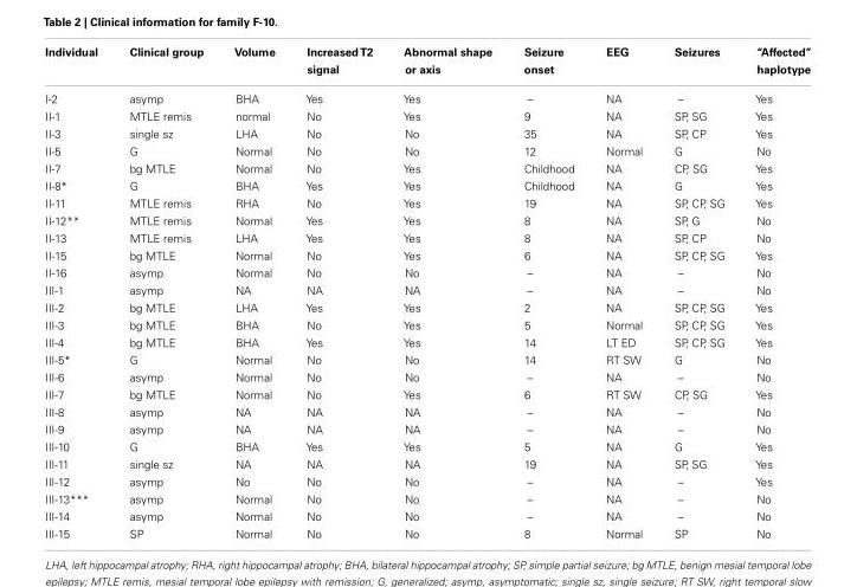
<table><thead><tr><td>Individual</td><td>Clinical group</td><td>Volume</td><td>IncreasedT2 signal</td><td>Abnormal shape or axis</td><td>Seizure onset</td><td>EEG</td><td>Seizures</td><td>“Affected” haplotype</td></tr></thead><tbody><tr><td>I-2</td><td>asymp</td><td>BHA</td><td>Yes</td><td>Yes</td><td>–</td><td>NA</td><td>–</td><td>Yes</td></tr><tr><td>II-1</td><td>MTLE remis</td><td>normal</td><td>No</td><td>Yes</td><td>9</td><td>NA</td><td>SP, SG</td><td>Yes</td></tr><tr><td>II-3</td><td>single sz</td><td>LHA</td><td>No</td><td>No</td><td>35</td><td>NA</td><td>SP, CP</td><td>Yes</td></tr><tr><td>II-5</td><td>G</td><td>Normal</td><td>No</td><td>No</td><td>12</td><td>Normal</td><td>G</td><td>No</td></tr><tr><td>II-7</td><td>bg MTLE</td><td>Normal</td><td>No</td><td>Yes</td><td>Childhood</td><td>NA</td><td>CP, SG</td><td>Yes</td></tr><tr><td>II-8*</td><td>G</td><td>BHA</td><td>Yes</td><td>Yes</td><td>Childhood</td><td>NA</td><td>G</td><td>Yes</td></tr><tr><td>II-11</td><td>MTLE remis</td><td>RHA</td><td>No</td><td>Yes</td><td>19</td><td>NA</td><td>SP, CP, SG</td><td>Yes</td></tr><tr><td>II-12**</td><td>MTLE remis</td><td>Normal</td><td>Yes</td><td>Yes</td><td>8</td><td>NA</td><td>SP, G</td><td>No</td></tr><tr><td>II-13</td><td>MTLE remis</td><td>LHA</td><td>Yes</td><td>Yes</td><td>8</td><td>NA</td><td>SP, CP</td><td>No</td></tr><tr><td>II-15</td><td>bg MTLE</td><td>Normal</td><td>No</td><td>Yes</td><td>6</td><td>NA</td><td>SP, CP, SG</td><td>Yes</td></tr><tr><td>II-16</td><td>asymp</td><td>Normal</td><td>No</td><td>No</td><td>–</td><td>NA</td><td>–</td><td>No</td></tr><tr><td>III-1</td><td>asymp</td><td>NA</td><td>NA</td><td>NA</td><td>–</td><td>NA</td><td>–</td><td>No</td></tr><tr><td>III-2</td><td>bg MTLE</td><td>LHA</td><td>Yes</td><td>Yes</td><td>2</td><td>NA</td><td>SP, CP, SG</td><td>Yes</td></tr><tr><td>III-3</td><td>bg MTLE</td><td>BHA</td><td>No</td><td>Yes</td><td>5</td><td>Normal</td><td>SP, CP, SG</td><td>Yes</td></tr><tr><td>III-4</td><td>bg MTLE</td><td>BHA</td><td>Yes</td><td>Yes</td><td>14</td><td>LT ED</td><td>SP, CP, SG</td><td>Yes</td></tr><tr><td>III-5*</td><td>G</td><td>Normal</td><td>No</td><td>No</td><td>14</td><td>RT SW</td><td>G</td><td>No</td></tr><tr><td>III-6</td><td>asymp</td><td>Normal</td><td>No</td><td>No</td><td>–</td><td>NA</td><td>–</td><td>No</td></tr><tr><td>III-7</td><td>bg MTLE</td><td>Normal</td><td>No</td><td>Yes</td><td>6</td><td>RT SW</td><td>CP, SG</td><td>Yes</td></tr><tr><td>III-8</td><td>asymp</td><td>NA</td><td>NA</td><td>NA</td><td>–</td><td>NA</td><td>–</td><td>No</td></tr><tr><td>III-9</td><td>asymp</td><td>NA</td><td>NA</td><td>NA</td><td>–</td><td>NA</td><td>–</td><td>No</td></tr><tr><td>III-10</td><td>G</td><td>BHA</td><td>Yes</td><td>Yes</td><td>5</td><td>NA</td><td>G</td><td>Yes</td></tr><tr><td>III-11</td><td>single sz</td><td>NA</td><td>NA</td><td>NA</td><td>19</td><td>NA</td><td>SP, SG</td><td>Yes</td></tr><tr><td>III-12</td><td>asymp</td><td>No</td><td>No</td><td>No</td><td>–</td><td>NA</td><td>–</td><td>Yes</td></tr><tr><td>III-13***</td><td>asymp</td><td>Normal</td><td>No</td><td>No</td><td>–</td><td>NA</td><td>–</td><td>No</td></tr><tr><td>III-14</td><td>asymp</td><td>Normal</td><td>No</td><td>No</td><td>–</td><td>NA</td><td>–</td><td>No</td></tr><tr><td>III-15</td><td>SP</td><td>Normal</td><td>No</td><td>No</td><td>8</td><td>Normal</td><td>SP</td><td>No</td></tr></tbody></table>